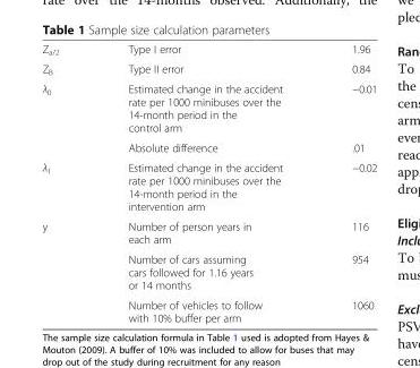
<table><tbody><tr><td>Z<sub>a/2</sub></td><td>Type I error</td><td>1.96</td></tr><tr><td>Z<sub>B</sub></td><td>Type II error</td><td>0.84</td></tr><tr><td rowspan="2">λ<sub>0</sub></td><td>Estimated change in the accident rate per 1000 minibuses over the 14-month period in the control arm</td><td>−0.01</td></tr><tr><td>Absolute difference</td><td>.01</td></tr><tr><td>λ<sub>1</sub></td><td>Estimated change in the accident rate per 1000 minibuses over the 14-month period in the intervention arm</td><td>−0.02</td></tr><tr><td rowspan="3">y</td><td>Number of person years in each arm</td><td>116</td></tr><tr><td>Number of cars assuming cars followed for 1.16 years or 14 months</td><td>954</td></tr><tr><td>Number of vehicles to follow with 10% buffer per arm</td><td>1060</td></tr></tbody></table>